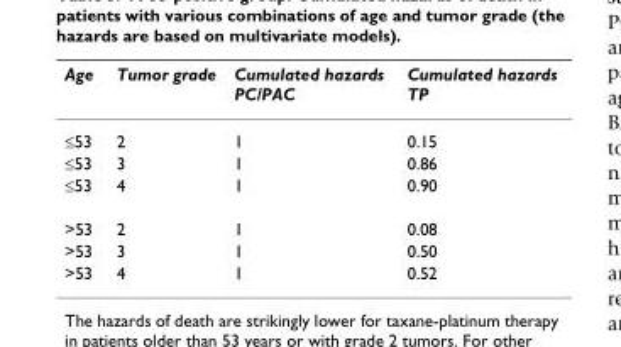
<table><thead><tr><td>Age</td><td>Tumor grade</td><td>Cumulated hazards PC/PAC</td><td>Cumulated hazards TP</td></tr></thead><tbody><tr><td>≤53</td><td>2</td><td>1</td><td>0.15</td></tr><tr><td>≤53</td><td>3</td><td>1</td><td>0.86</td></tr><tr><td>≤53</td><td>4</td><td>1</td><td>0.90</td></tr><tr><td>&gt;53</td><td>2</td><td>1</td><td>0.08</td></tr><tr><td>&gt;53</td><td>3</td><td>1</td><td>0.50</td></tr><tr><td>&gt;53</td><td>4</td><td>1</td><td>0.52</td></tr></tbody></table>